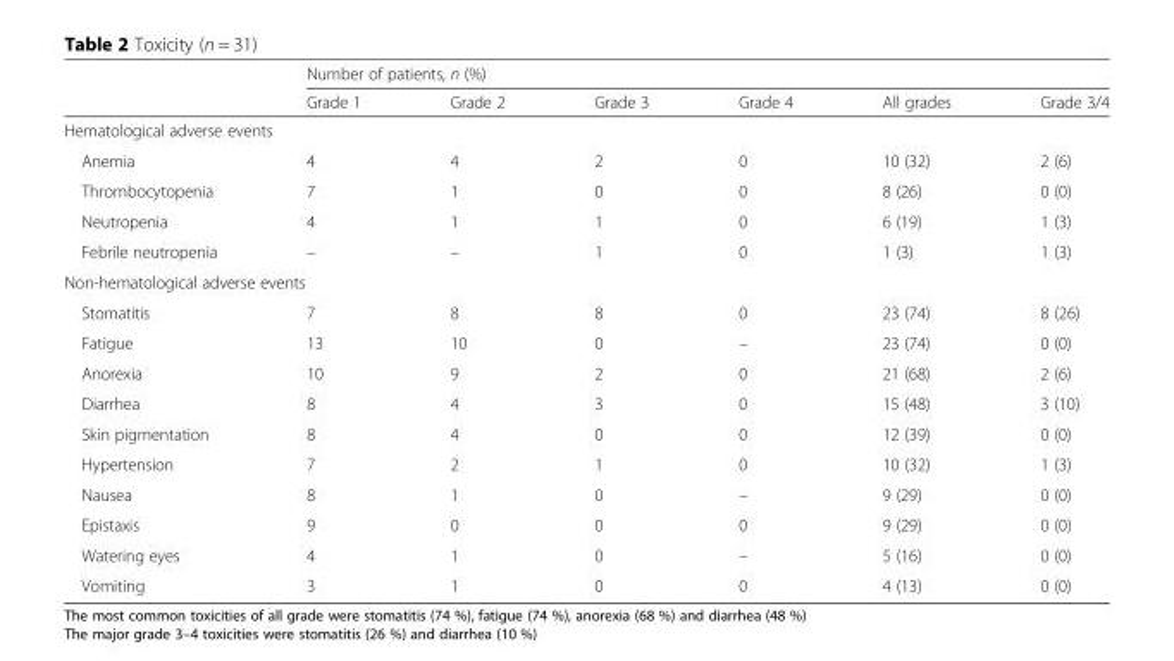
<table><thead><tr><td rowspan="2"></td><td colspan="6">Number of patients, n (%)</td></tr><tr><td>Grade 1</td><td>Grade 2</td><td>Grade 3</td><td>Grade 4</td><td>All grades</td><td>Grade 3/4</td></tr></thead><tbody><tr><td colspan="7">Hematological adverse events</td></tr><tr><td>Anemia</td><td>4</td><td>4</td><td>2</td><td>0</td><td>10 (32)</td><td>2 (6)</td></tr><tr><td>Thrombocytopenia</td><td>7</td><td>1</td><td>0</td><td>0</td><td>8 (26)</td><td>0 (0)</td></tr><tr><td>Neutropenia</td><td>4</td><td>1</td><td>1</td><td>0</td><td>6 (19)</td><td>1 (3)</td></tr><tr><td>Febrile neutropenia</td><td>–</td><td>–</td><td>1</td><td>0</td><td>1 (3)</td><td>1 (3)</td></tr><tr><td colspan="7">Non-hematological adverse events</td></tr><tr><td>Stomatitis</td><td>7</td><td>8</td><td>8</td><td>0</td><td>23 (74)</td><td>8 (26)</td></tr><tr><td>Fatigue</td><td>13</td><td>10</td><td>0</td><td>–</td><td>23 (74)</td><td>0 (0)</td></tr><tr><td>Anorexia</td><td>10</td><td>9</td><td>2</td><td>0</td><td>21 (68)</td><td>2 (6)</td></tr><tr><td>Diarrhea</td><td>8</td><td>4</td><td>3</td><td>0</td><td>15 (48)</td><td>3 (10)</td></tr><tr><td>Skin pigmentation</td><td>8</td><td>4</td><td>0</td><td>0</td><td>12 (39)</td><td>0 (0)</td></tr><tr><td>Hypertension</td><td>7</td><td>2</td><td>1</td><td>0</td><td>10 (32)</td><td>1 (3)</td></tr><tr><td>Nausea</td><td>8</td><td>1</td><td>0</td><td>–</td><td>9 (29)</td><td>0 (0)</td></tr><tr><td>Epistaxis</td><td>9</td><td>0</td><td>0</td><td>0</td><td>9 (29)</td><td>0 (0)</td></tr><tr><td>Watering eyes</td><td>4</td><td>1</td><td>0</td><td>–</td><td>5 (16)</td><td>0 (0)</td></tr><tr><td>Vomiting</td><td>3</td><td>1</td><td>0</td><td>0</td><td>4 (13)</td><td>0 (0)</td></tr></tbody></table>